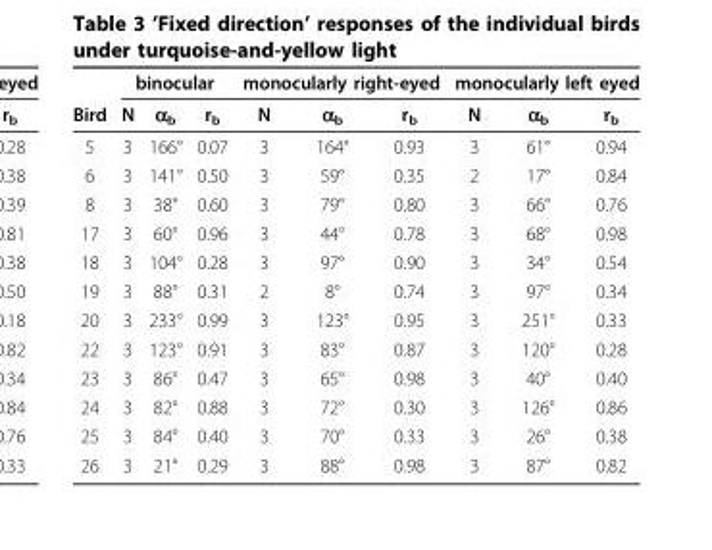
<table><thead><tr><td rowspan="2">Bird</td><td colspan="3">binocular</td><td colspan="3">monocularly right-eyed</td><td colspan="3">monocularly left eyed</td></tr><tr><td>N</td><td>α<sub>b</sub></td><td>r<sub>b</sub></td><td>N</td><td>α<sub>b</sub></td><td>r<sub>b</sub></td><td>N</td><td>α<sub>b</sub></td><td>r<sub>b</sub></td></tr></thead><tbody><tr><td>5</td><td>3</td><td>166°</td><td>0.07</td><td>3</td><td>164°</td><td>0.93</td><td>3</td><td>61°</td><td>0.94</td></tr><tr><td>6</td><td>3</td><td>141°</td><td>0.50</td><td>3</td><td>59°</td><td>0.35</td><td>2</td><td>17°</td><td>0.84</td></tr><tr><td>8</td><td>3</td><td>38°</td><td>0.60</td><td>3</td><td>79°</td><td>0.80</td><td>3</td><td>66°</td><td>0.76</td></tr><tr><td>17</td><td>3</td><td>60°</td><td>0.96</td><td>3</td><td>44°</td><td>0.78</td><td>3</td><td>68°</td><td>0.98</td></tr><tr><td>18</td><td>3</td><td>104°</td><td>0.28</td><td>3</td><td>97°</td><td>0.90</td><td>3</td><td>34°</td><td>0.54</td></tr><tr><td>19</td><td>3</td><td>88°</td><td>0.31</td><td>2</td><td>8°</td><td>0.74</td><td>3</td><td>97°</td><td>0.34</td></tr><tr><td>20</td><td>3</td><td>233°</td><td>0.99</td><td>3</td><td>123°</td><td>0.95</td><td>3</td><td>251°</td><td>0.33</td></tr><tr><td>22</td><td>3</td><td>123°</td><td>0.91</td><td>3</td><td>83°</td><td>0.87</td><td>3</td><td>120°</td><td>0.28</td></tr><tr><td>23</td><td>3</td><td>86°</td><td>0.47</td><td>3</td><td>65°</td><td>0.98</td><td>3</td><td>40°</td><td>0.40</td></tr><tr><td>24</td><td>3</td><td>82°</td><td>0.88</td><td>3</td><td>72°</td><td>0.30</td><td>3</td><td>126°</td><td>0.86</td></tr><tr><td>25</td><td>3</td><td>84°</td><td>0.40</td><td>3</td><td>70°</td><td>0.33</td><td>3</td><td>26°</td><td>0.38</td></tr><tr><td>26</td><td>3</td><td>21°</td><td>0.29</td><td>3</td><td>88°</td><td>0.98</td><td>3</td><td>87°</td><td>0.82</td></tr></tbody></table>